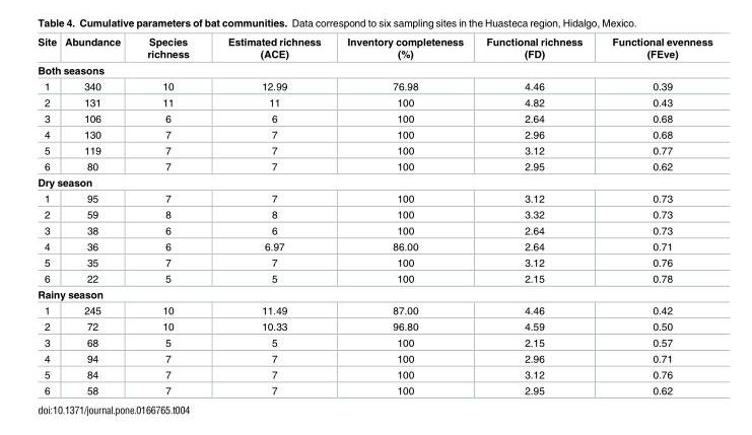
<table><thead><tr><td>Site</td><td>Abundance</td><td>Species richness</td><td>Estimated richness (ACE)</td><td>Inventory completeness (%)</td><td>Functional richness (FD)</td><td>Functional evenness (FEve)</td></tr></thead><tbody><tr><td colspan="7">Both seasons</td></tr><tr><td>1</td><td>340</td><td>10</td><td>12.99</td><td>76.98</td><td>4.46</td><td>0.39</td></tr><tr><td>2</td><td>131</td><td>11</td><td>11</td><td>100</td><td>4.82</td><td>0.43</td></tr><tr><td>3</td><td>106</td><td>6</td><td>6</td><td>100</td><td>2.64</td><td>0.68</td></tr><tr><td>4</td><td>130</td><td>7</td><td>7</td><td>100</td><td>2.96</td><td>0.68</td></tr><tr><td>5</td><td>119</td><td>7</td><td>7</td><td>100</td><td>3.12</td><td>0.77</td></tr><tr><td>6</td><td>80</td><td>7</td><td>7</td><td>100</td><td>2.95</td><td>0.62</td></tr><tr><td colspan="7">Dry season</td></tr><tr><td>1</td><td>95</td><td>7</td><td>7</td><td>100</td><td>3.12</td><td>0.73</td></tr><tr><td>2</td><td>59</td><td>8</td><td>8</td><td>100</td><td>3.32</td><td>0.73</td></tr><tr><td>3</td><td>38</td><td>6</td><td>6</td><td>100</td><td>2.64</td><td>0.73</td></tr><tr><td>4</td><td>36</td><td>6</td><td>6.97</td><td>86.00</td><td>2.64</td><td>0.71</td></tr><tr><td>5</td><td>35</td><td>7</td><td>7</td><td>100</td><td>3.12</td><td>0.76</td></tr><tr><td>6</td><td>22</td><td>5</td><td>5</td><td>100</td><td>2.15</td><td>0.78</td></tr><tr><td colspan="7">Rainy season</td></tr><tr><td>1</td><td>245</td><td>10</td><td>11.49</td><td>87.00</td><td>4.46</td><td>0.42</td></tr><tr><td>2</td><td>72</td><td>10</td><td>10.33</td><td>96.80</td><td>4.59</td><td>0.50</td></tr><tr><td>3</td><td>68</td><td>5</td><td>5</td><td>100</td><td>2.15</td><td>0.57</td></tr><tr><td>4</td><td>94</td><td>7</td><td>7</td><td>100</td><td>2.96</td><td>0.71</td></tr><tr><td>5</td><td>84</td><td>7</td><td>7</td><td>100</td><td>3.12</td><td>0.76</td></tr><tr><td>6</td><td>58</td><td>7</td><td>7</td><td>100</td><td>2.95</td><td>0.62</td></tr></tbody></table>